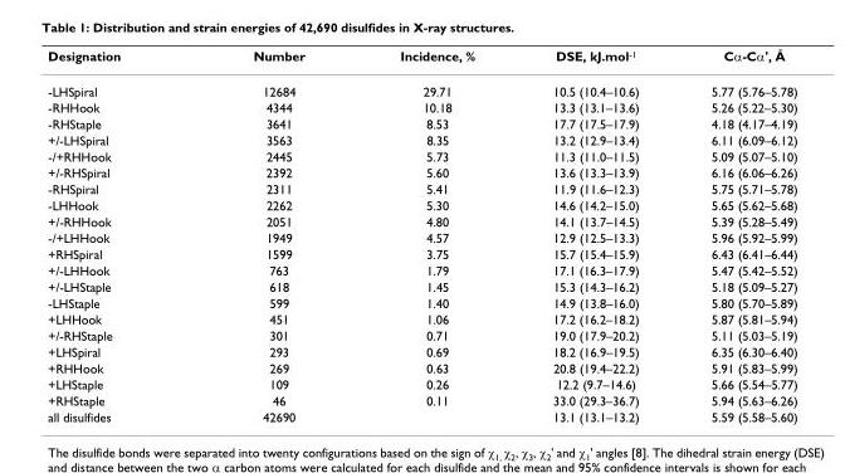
<table><thead><tr><td>Designation</td><td>Number</td><td>Incidence, %</td><td>DSE, kJ.mol<sup>-1</sup></td><td>Cα-Cα&#x27;, Å</td></tr></thead><tbody><tr><td>-LHSpiral</td><td>12684</td><td>29.71</td><td>10.5 (10.4–10.6)</td><td>5.77 (5.76–5.78)</td></tr><tr><td>-RHHook</td><td>4344</td><td>10.18</td><td>13.3 (13.1–13.6)</td><td>5.26 (5.22–5.30)</td></tr><tr><td>-RHStaple</td><td>3641</td><td>8.53</td><td>17.7 (17.5–17.9)</td><td>4.18 (4.17–4.19)</td></tr><tr><td>+/-LHSpiral</td><td>3563</td><td>8.35</td><td>13.2 (12.9–13.4)</td><td>6.11 (6.09–6.12)</td></tr><tr><td>-/+RHHook</td><td>2445</td><td>5.73</td><td>11.3 (11.0–11.5)</td><td>5.09 (5.07–5.10)</td></tr><tr><td>+/-RHSpiral</td><td>2392</td><td>5.60</td><td>13.6 (13.3–13.9)</td><td>6.16 (6.06–6.26)</td></tr><tr><td>-RHSpiral</td><td>2311</td><td>5.41</td><td>11.9 (11.6–12.3)</td><td>5.75 (5.71–5.78)</td></tr><tr><td>-LHHook</td><td>2262</td><td>5.30</td><td>14.6 (14.2–15.0)</td><td>5.65 (5.62–5.68)</td></tr><tr><td>+/-RHHook</td><td>2051</td><td>4.80</td><td>14.1 (13.7–14.5)</td><td>5.39 (5.28–5.49)</td></tr><tr><td>-/+LHHook</td><td>1949</td><td>4.57</td><td>12.9 (12.5–13.3)</td><td>5.96 (5.92–5.99)</td></tr><tr><td>+RHSpiral</td><td>1599</td><td>3.75</td><td>15.7 (15.4–15.9)</td><td>6.43 (6.41–6.44)</td></tr><tr><td>+/-LHHook</td><td>763</td><td>1.79</td><td>17.1 (16.3–17.9)</td><td>5.47 (5.42–5.52)</td></tr><tr><td>+/-LHStaple</td><td>618</td><td>1.45</td><td>15.3 (14.3–16.2)</td><td>5.18 (5.09–5.27)</td></tr><tr><td>-LHStaple</td><td>599</td><td>1.40</td><td>14.9 (13.8–16.0)</td><td>5.80 (5.70–5.89)</td></tr><tr><td>+LHHook</td><td>451</td><td>1.06</td><td>17.2 (16.2–18.2)</td><td>5.87 (5.81–5.94)</td></tr><tr><td>+/-RHStaple</td><td>301</td><td>0.71</td><td>19.0 (17.9–20.2)</td><td>5.11 (5.03–5.19)</td></tr><tr><td>+LHSpiral</td><td>293</td><td>0.69</td><td>18.2 (16.9–19.5)</td><td>6.35 (6.30–6.40)</td></tr><tr><td>+RHHook</td><td>269</td><td>0.63</td><td>20.8 (19.4–22.2)</td><td>5.91 (5.83–5.99)</td></tr><tr><td>+LHStaple</td><td>109</td><td>0.26</td><td>12.2 (9.7–14.6)</td><td>5.66 (5.54–5.77)</td></tr><tr><td>+RHStaple</td><td>46</td><td>0.11</td><td>33.0 (29.3–36.7)</td><td>5.94 (5.63–6.26)</td></tr><tr><td>all disulfides</td><td>42690</td><td></td><td>13.1 (13.1–13.2)</td><td>5.59 (5.58–5.60)</td></tr></tbody></table>